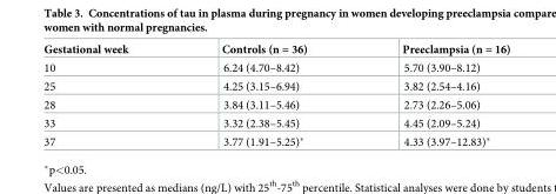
<table><thead><tr><td>Gestational week</td><td>Controls (n = 36)</td><td>Preeclampsia (n = 16)</td></tr></thead><tbody><tr><td>10</td><td>6.24 (4.70–8.42)</td><td>5.70 (3.90–8.12)</td></tr><tr><td>25</td><td>4.25 (3.15–6.94)</td><td>3.82 (2.54–4.16)</td></tr><tr><td>28</td><td>3.84 (3.11–5.46)</td><td>2.73 (2.26–5.06)</td></tr><tr><td>33</td><td>3.32 (2.38–5.45)</td><td>4.45 (2.09–5.24)</td></tr><tr><td>37</td><td>3.77 (1.91–5.25)*</td><td>4.33 (3.97–12.83)*</td></tr></tbody></table>